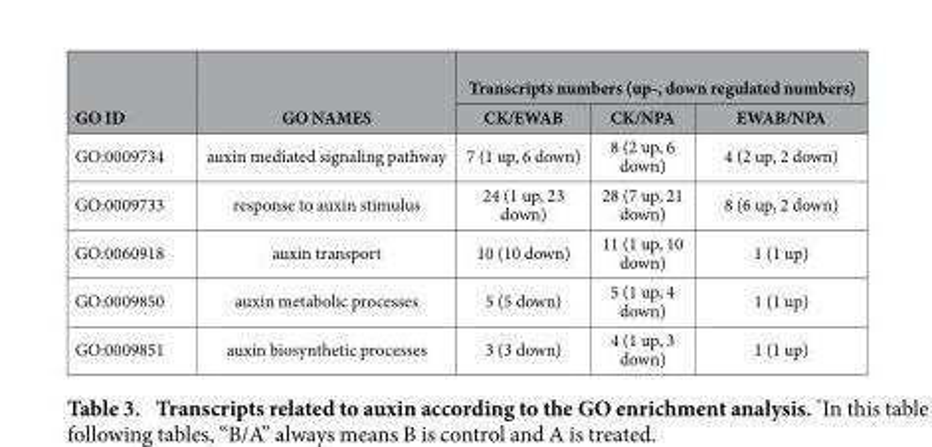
<table><thead><tr><td rowspan="2">GO ID</td><td rowspan="2">GO NAMES</td><td colspan="3">Transcripts numbers (up-, down regulated numbers)</td></tr><tr><td>CK/EWAB</td><td>CK/NPA</td><td>EWAB/NPA</td></tr></thead><tbody><tr><td>GO:0009734</td><td>auxin mediated signaling pathway</td><td>7 (1 up, 6 down)</td><td>8 (2 up, 6 down)</td><td>4 (2 up, 2 down)</td></tr><tr><td>GO:0009733</td><td>response to auxin stimulus</td><td>24 (1 up, 23 down)</td><td>28 (7 up, 21 down)</td><td>8 (6 up, 2 down)</td></tr><tr><td>GO:0060918</td><td>auxin transport</td><td>10 (10 down)</td><td>11 (1 up, 10 down)</td><td>1 (1 up)</td></tr><tr><td>GO:0009850</td><td>auxin metabolic processes</td><td>5 (5 down)</td><td>5 (1 up, 4 down)</td><td>1 (1 up)</td></tr><tr><td>GO:0009851</td><td>auxin biosynthetic processes</td><td>3 (3 down)</td><td>4 (1 up, 3 down)</td><td>1 (1 up)</td></tr></tbody></table>